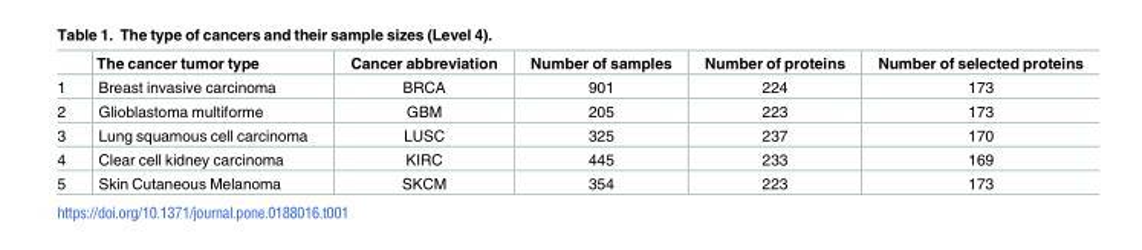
<table><thead><tr><td></td><td>The cancer tumor type</td><td>Cancer abbreviation</td><td>Number of samples</td><td>Number of proteins</td><td>Number of selected proteins</td></tr></thead><tbody><tr><td>1</td><td>Breast invasive carcinoma</td><td>BRCA</td><td>901</td><td>224</td><td>173</td></tr><tr><td>2</td><td>Glioblastoma multiforme</td><td>GBM</td><td>205</td><td>223</td><td>173</td></tr><tr><td>3</td><td>Lung squamous cell carcinoma</td><td>LUSC</td><td>325</td><td>237</td><td>170</td></tr><tr><td>4</td><td>Clear cell kidney carcinoma</td><td>KIRC</td><td>445</td><td>233</td><td>169</td></tr><tr><td>5</td><td>Skin Cutaneous Melanoma</td><td>SKCM</td><td>354</td><td>223</td><td>173</td></tr></tbody></table>